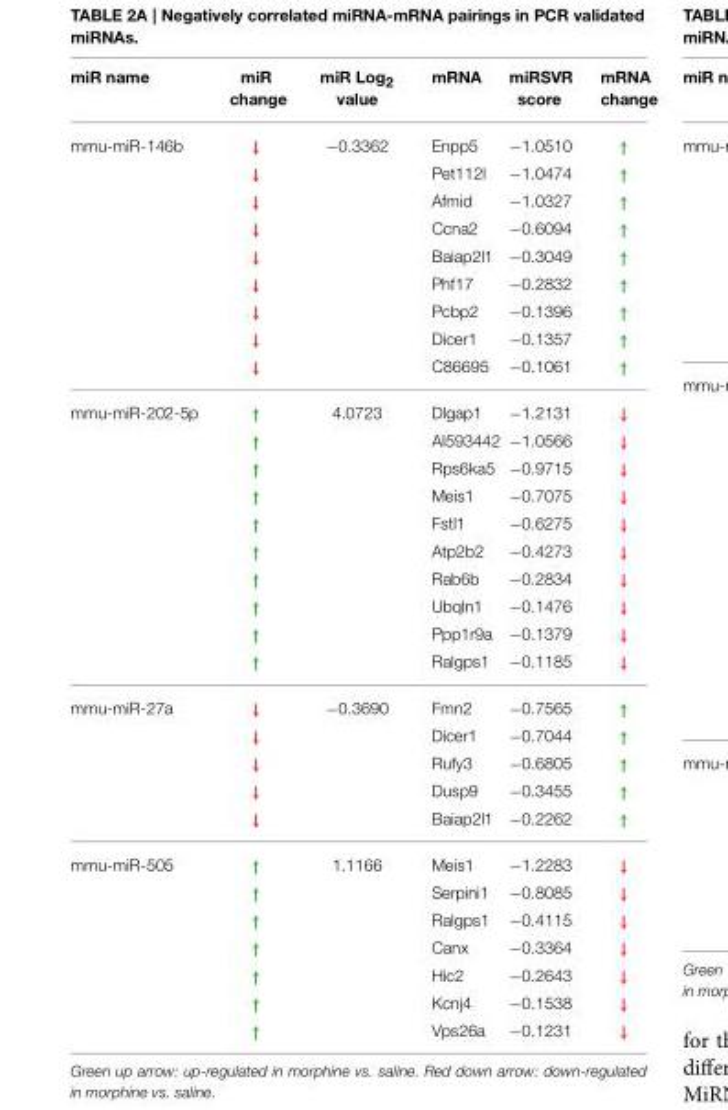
<table><thead><tr><td>miR name</td><td>miR change</td><td>miR Log<sub>2</sub> value</td><td>mRNA</td><td>miRSVR score</td><td>mRNA change</td></tr></thead><tbody><tr><td rowspan="9">mmu-miR-146b</td><td>↓</td><td>−0.3362</td><td>Enpp5</td><td>−1.0510</td><td>↑</td></tr><tr><td>↓</td><td></td><td>Pet112l</td><td>−1.0474</td><td>↑</td></tr><tr><td>↓</td><td></td><td>Afmid</td><td>−1.0327</td><td>↑</td></tr><tr><td>↓</td><td></td><td>Ccna2</td><td>−0.6094</td><td>↑</td></tr><tr><td>↓</td><td></td><td>Baiap2l1</td><td>−0.3049</td><td>↑</td></tr><tr><td>↓</td><td></td><td>Phf17</td><td>−0.2832</td><td>↑</td></tr><tr><td>↓</td><td></td><td>Pcbp2</td><td>−0.1396</td><td>↑</td></tr><tr><td>↓</td><td></td><td>Dicer1</td><td>−0.1357</td><td>↑</td></tr><tr><td>↓</td><td></td><td>C86695</td><td>−0.1061</td><td>↑</td></tr><tr><td rowspan="10">mmu-miR-202-5p</td><td>↑</td><td>4.0723</td><td>Dlgap1</td><td>−1.2131</td><td>↓</td></tr><tr><td>↑</td><td></td><td>AI593442</td><td>−1.0566</td><td>↓</td></tr><tr><td>↑</td><td></td><td>Rps6ka5</td><td>−0.9715</td><td>↓</td></tr><tr><td>↑</td><td></td><td>Meis1</td><td>−0.7075</td><td>↓</td></tr><tr><td>↑</td><td></td><td>Fstl1</td><td>−0.6275</td><td>↓</td></tr><tr><td>↑</td><td></td><td>Atp2b2</td><td>−0.4273</td><td>↓</td></tr><tr><td>↑</td><td></td><td>Rab6b</td><td>−0.2834</td><td>↓</td></tr><tr><td>↑</td><td></td><td>Ubqln1</td><td>−0.1476</td><td>↓</td></tr><tr><td>↑</td><td></td><td>Ppp1r9a</td><td>−0.1379</td><td>↓</td></tr><tr><td>↑</td><td></td><td>Ralgps1</td><td>−0.1185</td><td>↓</td></tr><tr><td rowspan="5">mmu-miR-27a</td><td>↓</td><td>−0.3690</td><td>Fmn2</td><td>−0.7565</td><td>↑</td></tr><tr><td>↓</td><td></td><td>Dicer1</td><td>−0.7044</td><td>↑</td></tr><tr><td>↓</td><td></td><td>Rufy3</td><td>−0.6805</td><td>↑</td></tr><tr><td>↓</td><td></td><td>Dusp9</td><td>−0.3455</td><td>↑</td></tr><tr><td>↓</td><td></td><td>Baiap2l1</td><td>−0.2262</td><td>↑</td></tr><tr><td rowspan="7">mmu-miR-505</td><td>↑</td><td>1.1166</td><td>Meis1</td><td>−1.2283</td><td>↓</td></tr><tr><td>↑</td><td></td><td>Serpini1</td><td>−0.8085</td><td>↓</td></tr><tr><td>↑</td><td></td><td>Ralgps1</td><td>−0.4115</td><td>↓</td></tr><tr><td>↑</td><td></td><td>Canx</td><td>−0.3364</td><td>↓</td></tr><tr><td>↑</td><td></td><td>Hic2</td><td>−0.2643</td><td>↓</td></tr><tr><td>↑</td><td></td><td>Kcnj4</td><td>−0.1538</td><td>↓</td></tr><tr><td>↑</td><td></td><td>Vps26a</td><td>−0.1231</td><td>↓</td></tr></tbody></table>